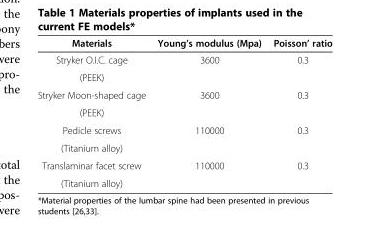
<table><thead><tr><td>Materials</td><td>Young’s modulus (Mpa)</td><td>Poisson’ ratio</td></tr></thead><tbody><tr><td>Stryker O.I.C. cage</td><td rowspan="2">3600</td><td rowspan="2">0.3</td></tr><tr><td>(PEEK)</td></tr><tr><td>Stryker Moon-shaped cage</td><td rowspan="2">3600</td><td rowspan="2">0.3</td></tr><tr><td>(PEEK)</td></tr><tr><td>Pedicle screws</td><td rowspan="2">110000</td><td rowspan="2">0.3</td></tr><tr><td>(Titanium alloy)</td></tr><tr><td>Translaminar facet screw</td><td rowspan="2">110000</td><td rowspan="2">0.3</td></tr><tr><td>(Titanium alloy)</td></tr></tbody></table>